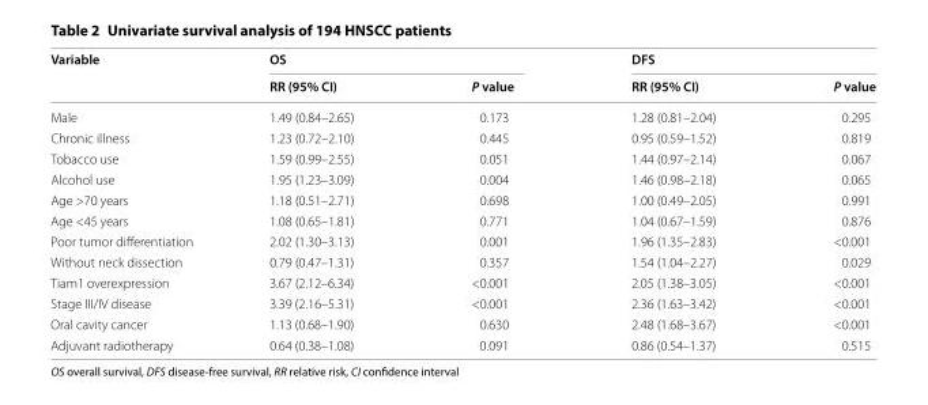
<table><thead><tr><td rowspan="2">Variable</td><td colspan="2">OS</td><td colspan="2">DFS</td></tr><tr><td>RR (95% CI)</td><td>P value</td><td>RR (95% CI)</td><td>P value</td></tr></thead><tbody><tr><td>Male</td><td>1.49 (0.84–2.65)</td><td>0.173</td><td>1.28 (0.81–2.04)</td><td>0.295</td></tr><tr><td>Chronic illness</td><td>1.23 (0.72–2.10)</td><td>0.445</td><td>0.95 (0.59–1.52)</td><td>0.819</td></tr><tr><td>Tobacco use</td><td>1.59 (0.99–2.55)</td><td>0.051</td><td>1.44 (0.97–2.14)</td><td>0.067</td></tr><tr><td>Alcohol use</td><td>1.95 (1.23–3.09)</td><td>0.004</td><td>1.46 (0.98–2.18)</td><td>0.065</td></tr><tr><td>Age &gt;70 years</td><td>1.18 (0.51–2.71)</td><td>0.698</td><td>1.00 (0.49–2.05)</td><td>0.991</td></tr><tr><td>Age &lt;45 years</td><td>1.08 (0.65–1.81)</td><td>0.771</td><td>1.04 (0.67–1.59)</td><td>0.876</td></tr><tr><td>Poor tumor differentiation</td><td>2.02 (1.30–3.13)</td><td>0.001</td><td>1.96 (1.35–2.83)</td><td>&lt;0.001</td></tr><tr><td>Without neck dissection</td><td>0.79 (0.47–1.31)</td><td>0.357</td><td>1.54 (1.04–2.27)</td><td>0.029</td></tr><tr><td>Tiam1 overexpression</td><td>3.67 (2.12–6.34)</td><td>&lt;0.001</td><td>2.05 (1.38–3.05)</td><td>&lt;0.001</td></tr><tr><td>Stage III/IV disease</td><td>3.39 (2.16–5.31)</td><td>&lt;0.001</td><td>2.36 (1.63–3.42)</td><td>&lt;0.001</td></tr><tr><td>Oral cavity cancer</td><td>1.13 (0.68–1.90)</td><td>0.630</td><td>2.48 (1.68–3.67)</td><td>&lt;0.001</td></tr><tr><td>Adjuvant radiotherapy</td><td>0.64 (0.38–1.08)</td><td>0.091</td><td>0.86 (0.54–1.37)</td><td>0.515</td></tr></tbody></table>